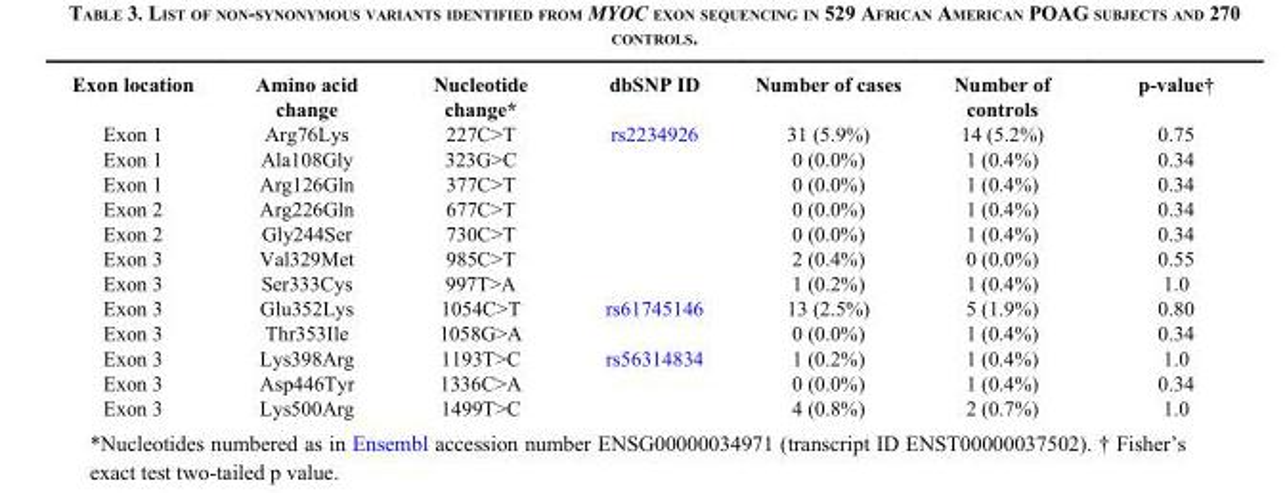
<table><thead><tr><td>Exon location</td><td>Amino acid change</td><td>Nucleotide change*</td><td>dbSNP ID</td><td>Number of cases</td><td>Number of controls</td><td>p-value†</td></tr></thead><tbody><tr><td>Exon 1</td><td>Arg76Lys</td><td>227C&gt;T</td><td>rs2234926</td><td>31 (5.9%)</td><td>14 (5.2%)</td><td>0.75</td></tr><tr><td>Exon 1</td><td>Ala108Gly</td><td>323G&gt;C</td><td></td><td>0 (0.0%)</td><td>1 (0.4%)</td><td>0.34</td></tr><tr><td>Exon 1</td><td>Arg126Gln</td><td>377C&gt;T</td><td></td><td>0 (0.0%)</td><td>1 (0.4%)</td><td>0.34</td></tr><tr><td>Exon 2</td><td>Arg226Gln</td><td>677C&gt;T</td><td></td><td>0 (0.0%)</td><td>1 (0.4%)</td><td>0.34</td></tr><tr><td>Exon 2</td><td>Gly244Ser</td><td>730C&gt;T</td><td></td><td>0 (0.0%)</td><td>1 (0.4%)</td><td>0.34</td></tr><tr><td>Exon 3</td><td>Val329Met</td><td>985C&gt;T</td><td></td><td>2 (0.4%)</td><td>0 (0.0%)</td><td>0.55</td></tr><tr><td>Exon 3</td><td>Ser333Cys</td><td>997T&gt;A</td><td></td><td>1 (0.2%)</td><td>1 (0.4%)</td><td>1.0</td></tr><tr><td>Exon 3</td><td>Glu352Lys</td><td>1054C&gt;T</td><td>rs61745146</td><td>13 (2.5%)</td><td>5 (1.9%)</td><td>0.80</td></tr><tr><td>Exon 3</td><td>Thr353Ile</td><td>1058G&gt;A</td><td></td><td>0 (0.0%)</td><td>1 (0.4%)</td><td>0.34</td></tr><tr><td>Exon 3</td><td>Lys398Arg</td><td>1193T&gt;C</td><td>rs56314834</td><td>1 (0.2%)</td><td>1 (0.4%)</td><td>1.0</td></tr><tr><td>Exon 3</td><td>Asp446Tyr</td><td>1336C&gt;A</td><td></td><td>0 (0.0%)</td><td>1 (0.4%)</td><td>0.34</td></tr><tr><td>Exon 3</td><td>Lys500Arg</td><td>1499T&gt;C</td><td></td><td>4 (0.8%)</td><td>2 (0.7%)</td><td>1.0</td></tr></tbody></table>